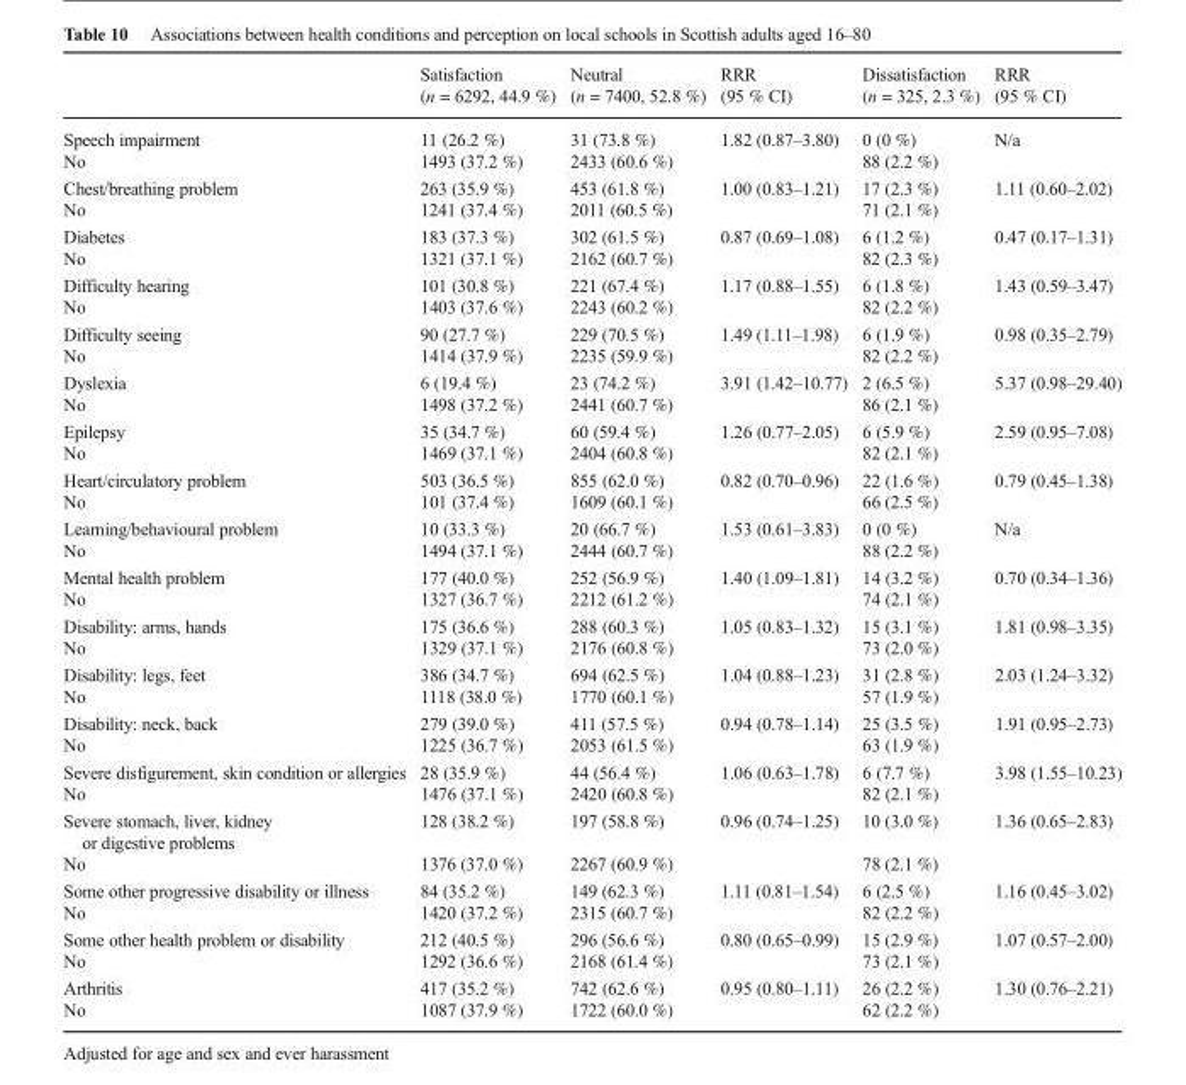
<table><thead><tr><td></td><td>Satisfaction (n = 6292, 44.9 %)</td><td>Neutral (n = 7400, 52.8 %)</td><td>RRR (95 % CI)</td><td>Dissatisfaction (n = 325, 2.3 %)</td><td>RRR (95 % CI)</td></tr></thead><tbody><tr><td>Speech impairment</td><td>11 (26.2 %)</td><td>31 (73.8 %)</td><td rowspan="2">1.82 (0.87–3.80)</td><td>0 (0 %)</td><td rowspan="2">N/a</td></tr><tr><td>No</td><td>1493 (37.2 %)</td><td>2433 (60.6 %)</td><td>88 (2.2 %)</td></tr><tr><td>Chest/breathing problem</td><td>263 (35.9 %)</td><td>453 (61.8 %)</td><td rowspan="2">1.00 (0.83–1.21)</td><td>17 (2.3 %)</td><td rowspan="2">1.11 (0.60–2.02)</td></tr><tr><td>No</td><td>1241 (37.4 %)</td><td>2011 (60.5 %)</td><td>71 (2.1 %)</td></tr><tr><td>Diabetes</td><td>183 (37.3 %)</td><td>302 (61.5 %)</td><td rowspan="2">0.87 (0.69–1.08)</td><td>6 (1.2 %)</td><td rowspan="2">0.47 (0.17–1.31)</td></tr><tr><td>No</td><td>1321 (37.1 %)</td><td>2162 (60.7 %)</td><td>82 (2.3 %)</td></tr><tr><td>Difficulty hearing</td><td>101 (30.8 %)</td><td>221 (67.4 %)</td><td rowspan="2">1.17 (0.88–1.55)</td><td>6 (1.8 %)</td><td rowspan="2">1.43 (0.59–3.47)</td></tr><tr><td>No</td><td>1403 (37.6 %)</td><td>2243 (60.2 %)</td><td>82 (2.2 %)</td></tr><tr><td>Difficulty seeing</td><td>90 (27.7 %)</td><td>229 (70.5 %)</td><td rowspan="2">1.49 (1.11–1.98)</td><td>6 (1.9 %)</td><td rowspan="2">0.98 (0.35–2.79)</td></tr><tr><td>No</td><td>1414 (37.9 %)</td><td>2235 (59.9 %)</td><td>82 (2.2 %)</td></tr><tr><td>Dyslexia</td><td>6 (19.4 %)</td><td>23 (74.2 %)</td><td rowspan="2">3.91 (1.42–10.77)</td><td>2 (6.5 %)</td><td rowspan="2">5.37 (0.98–29.40)</td></tr><tr><td>No</td><td>1498 (37.2 %)</td><td>2441 (60.7 %)</td><td>86 (2.1 %)</td></tr><tr><td>Epilepsy</td><td>35 (34.7 %)</td><td>60 (59.4 %)</td><td rowspan="2">1.26 (0.77–2.05)</td><td>6 (5.9 %)</td><td rowspan="2">2.59 (0.95–7.08)</td></tr><tr><td>No</td><td>1469 (37.1 %)</td><td>2404 (60.8 %)</td><td>82 (2.1 %)</td></tr><tr><td>Heart/circulatory problem</td><td>503 (36.5 %)</td><td>855 (62.0 %)</td><td rowspan="2">0.82 (0.70–0.96)</td><td>22 (1.6 %)</td><td rowspan="2">0.79 (0.45–1.38)</td></tr><tr><td>No</td><td>101 (37.4 %)</td><td>1609 (60.1 %)</td><td>66 (2.5 %)</td></tr><tr><td>Learning/behavioural problem</td><td>10 (33.3 %)</td><td>20 (66.7 %)</td><td rowspan="2">1.53 (0.61–3.83)</td><td>0 (0 %)</td><td rowspan="2">N/a</td></tr><tr><td>No</td><td>1494 (37.1 %)</td><td>2444 (60.7 %)</td><td>88 (2.2 %)</td></tr><tr><td>Mental health problem</td><td>177 (40.0 %)</td><td>252 (56.9 %)</td><td rowspan="2">1.40 (1.09–1.81)</td><td>14 (3.2 %)</td><td rowspan="2">0.70 (0.34–1.36)</td></tr><tr><td>No</td><td>1327 (36.7 %)</td><td>2212 (61.2 %)</td><td>74 (2.1 %)</td></tr><tr><td>Disability: arms, hands</td><td>175 (36.6 %)</td><td>288 (60.3 %)</td><td rowspan="2">1.05 (0.83–1.32)</td><td>15 (3.1 %)</td><td rowspan="2">1.81 (0.98–3.35)</td></tr><tr><td>No</td><td>1329 (37.1 %)</td><td>2176 (60.8 %)</td><td>73 (2.0 %)</td></tr><tr><td>Disability: legs, feet</td><td>386 (34.7 %)</td><td>694 (62.5 %)</td><td rowspan="2">1.04 (0.88–1.23)</td><td>31 (2.8 %)</td><td rowspan="2">2.03 (1.24–3.32)</td></tr><tr><td>No</td><td>1118 (38.0 %)</td><td>1770 (60.1 %)</td><td>57 (1.9 %)</td></tr><tr><td>Disability: neck, back</td><td>279 (39.0 %)</td><td>411 (57.5 %)</td><td rowspan="2">0.94 (0.78–1.14)</td><td>25 (3.5 %)</td><td rowspan="2">1.91 (0.95–2.73)</td></tr><tr><td>No</td><td>1225 (36.7 %)</td><td>2053 (61.5 %)</td><td>63 (1.9 %)</td></tr><tr><td>Severe disfigurement, skin condition or allergies</td><td>28 (35.9 %)</td><td>44 (56.4 %)</td><td rowspan="2">1.06 (0.63–1.78)</td><td>6 (7.7 %)</td><td rowspan="2">3.98 (1.55–10.23)</td></tr><tr><td>No</td><td>1476 (37.1 %)</td><td>2420 (60.8 %)</td><td>82 (2.1 %)</td></tr><tr><td>Severe stomach, liver, kidney or digestive problems</td><td>128 (38.2 %)</td><td>197 (58.8 %)</td><td rowspan="2">0.96 (0.74–1.25)</td><td>10 (3.0 %)</td><td rowspan="2">1.36 (0.65–2.83)</td></tr><tr><td>No</td><td>1376 (37.0 %)</td><td>2267 (60.9 %)</td><td>78 (2.1 %)</td></tr><tr><td>Some other progressive disability or illness</td><td>84 (35.2 %)</td><td>149 (62.3 %)</td><td rowspan="2">1.11 (0.81–1.54)</td><td>6 (2.5 %)</td><td rowspan="2">1.16 (0.45–3.02)</td></tr><tr><td>No</td><td>1420 (37.2 %)</td><td>2315 (60.7 %)</td><td>82 (2.2 %)</td></tr><tr><td>Some other health problem or disability</td><td>212 (40.5 %)</td><td>296 (56.6 %)</td><td rowspan="2">0.80 (0.65–0.99)</td><td>15 (2.9 %)</td><td rowspan="2">1.07 (0.57–2.00)</td></tr><tr><td>No</td><td>1292 (36.6 %)</td><td>2168 (61.4 %)</td><td>73 (2.1 %)</td></tr><tr><td>Arthritis</td><td>417 (35.2 %)</td><td>742 (62.6 %)</td><td rowspan="2">0.95 (0.80–1.11)</td><td>26 (2.2 %)</td><td rowspan="2">1.30 (0.76–2.21)</td></tr><tr><td>No</td><td>1087 (37.9 %)</td><td>1722 (60.0 %)</td><td>62 (2.2 %)</td></tr></tbody></table>